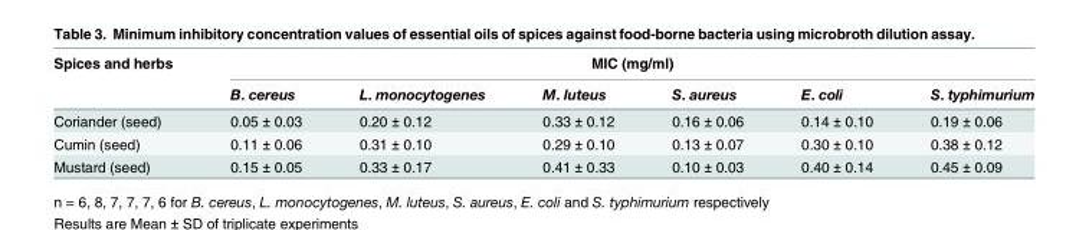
<table><thead><tr><td rowspan="2">Spices and herbs</td><td colspan="6">MIC (mg/ml)</td></tr><tr><td>B. cereus</td><td>L. monocytogenes</td><td>M. luteus</td><td>S. aureus</td><td>E. coli</td><td>S. typhimurium</td></tr></thead><tbody><tr><td>Coriander (seed)</td><td>0.05 ± 0.03</td><td>0.20 ± 0.12</td><td>0.33 ± 0.12</td><td>0.16 ± 0.06</td><td>0.14 ± 0.10</td><td>0.19 ± 0.06</td></tr><tr><td>Cumin (seed)</td><td>0.11 ± 0.06</td><td>0.31 ± 0.10</td><td>0.29 ± 0.10</td><td>0.13 ± 0.07</td><td>0.30 ± 0.10</td><td>0.38 ± 0.12</td></tr><tr><td>Mustard (seed)</td><td>0.15 ± 0.05</td><td>0.33 ± 0.17</td><td>0.41 ± 0.33</td><td>0.10 ± 0.03</td><td>0.40 ± 0.14</td><td>0.45 ± 0.09</td></tr></tbody></table>